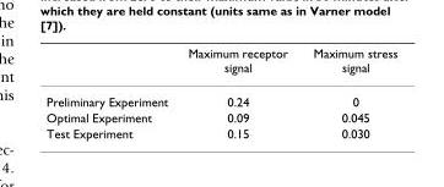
<table><thead><tr><td></td><td>Maximum receptor signal</td><td>Maximum stress signal</td></tr></thead><tbody><tr><td>Preliminary Experiment</td><td>0.24</td><td>0</td></tr><tr><td>Optimal Experiment</td><td>0.09</td><td>0.045</td></tr><tr><td>Test Experiment</td><td>0.15</td><td>0.030</td></tr></tbody></table>